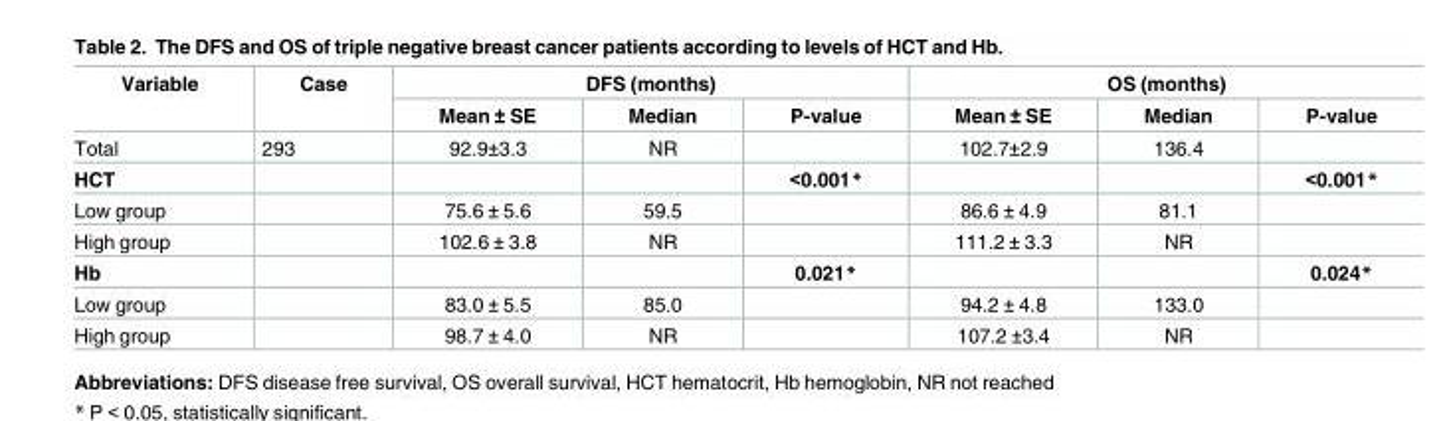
<table><thead><tr><td rowspan="2">Variable</td><td rowspan="2">Case</td><td colspan="3">DFS (months)</td><td colspan="3">OS (months)</td></tr><tr><td>Mean ± SE</td><td>Median</td><td>P-value</td><td>Mean ± SE</td><td>Median</td><td>P-value</td></tr></thead><tbody><tr><td>Total</td><td>293</td><td>92.9±3.3</td><td>NR</td><td></td><td>102.7±2.9</td><td>136.4</td><td></td></tr><tr><td>HCT</td><td></td><td></td><td></td><td>&lt;0.001*</td><td></td><td></td><td>&lt;0.001*</td></tr><tr><td>Low group</td><td></td><td>75.6 ± 5.6</td><td>59.5</td><td></td><td>86.6 ± 4.9</td><td>81.1</td><td></td></tr><tr><td>High group</td><td></td><td>102.6 ± 3.8</td><td>NR</td><td></td><td>111.2 ± 3.3</td><td>NR</td><td></td></tr><tr><td>Hb</td><td></td><td></td><td></td><td>0.021*</td><td></td><td></td><td>0.024*</td></tr><tr><td>Low group</td><td></td><td>83.0 ± 5.5</td><td>85.0</td><td></td><td>94.2 ± 4.8</td><td>133.0</td><td></td></tr><tr><td>High group</td><td></td><td>98.7 ± 4.0</td><td>NR</td><td></td><td>107.2 ±3.4</td><td>NR</td><td></td></tr></tbody></table>